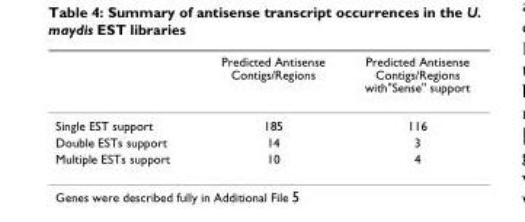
<table><thead><tr><td></td><td>Predicted Antisense Contigs/Regions</td><td>Predicted Antisense Contigs/Regions with&quot;Sense&quot; support</td></tr></thead><tbody><tr><td>Single EST support</td><td>185</td><td>116</td></tr><tr><td>Double ESTs support</td><td>14</td><td>3</td></tr><tr><td>Multiple ESTs support</td><td>10</td><td>4</td></tr></tbody></table>